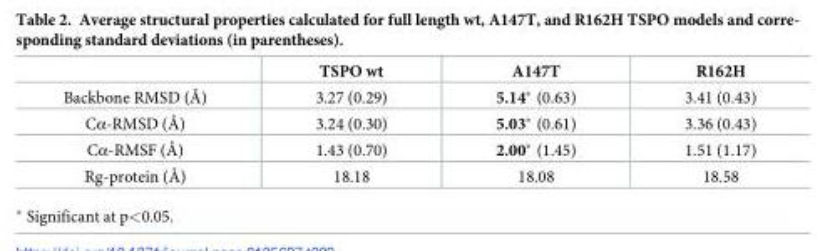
<table><thead><tr><td></td><td>TSPO wt</td><td>A147T</td><td>R162H</td></tr></thead><tbody><tr><td>Backbone RMSD (Å)</td><td>3.27 (0.29)</td><td>5.14* (0.63)</td><td>3.41 (0.43)</td></tr><tr><td>Cα-RMSD (Å)</td><td>3.24 (0.30)</td><td>5.03* (0.61)</td><td>3.36 (0.43)</td></tr><tr><td>Cα-RMSF (Å)</td><td>1.43 (0.70)</td><td>2.00* (1.45)</td><td>1.51 (1.17)</td></tr><tr><td>Rg-protein (Å)</td><td>18.18</td><td>18.08</td><td>18.58</td></tr></tbody></table>